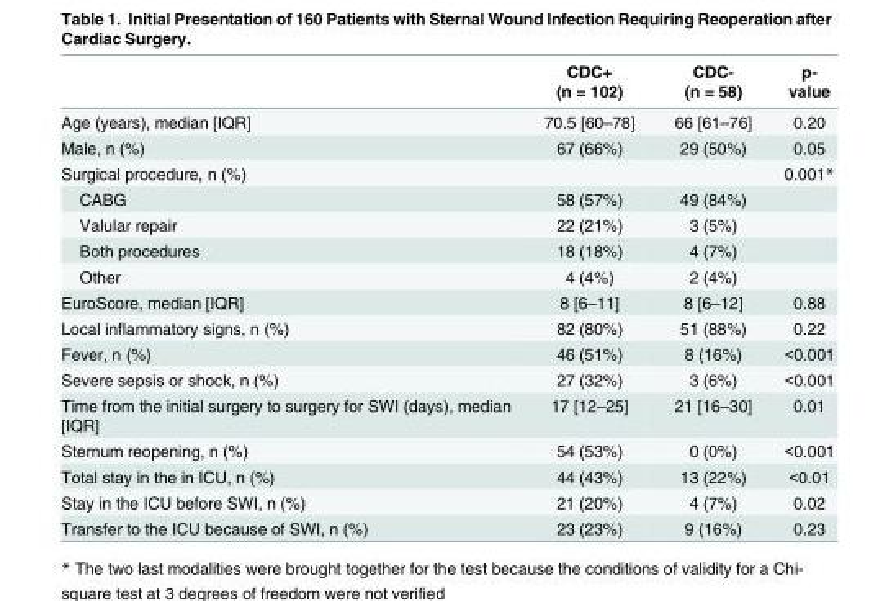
<table><thead><tr><td></td><td>CDC+ (n = 102)</td><td>CDC- (n = 58)</td><td>p- value</td></tr></thead><tbody><tr><td>Age (years), median [IQR]</td><td>70.5 [60–78]</td><td>66 [61–76]</td><td>0.20</td></tr><tr><td>Male, n (%)</td><td>67 (66%)</td><td>29 (50%)</td><td>0.05</td></tr><tr><td>Surgical procedure, n (%)</td><td></td><td></td><td>0.001*</td></tr><tr><td>CABG</td><td>58 (57%)</td><td>49 (84%)</td><td></td></tr><tr><td>Valular repair</td><td>22 (21%)</td><td>3 (5%)</td><td></td></tr><tr><td>Both procedures</td><td>18 (18%)</td><td>4 (7%)</td><td></td></tr><tr><td>Other</td><td>4 (4%)</td><td>2 (4%)</td><td></td></tr><tr><td>EuroScore, median [IQR]</td><td>8 [6–11]</td><td>8 [6–12]</td><td>0.88</td></tr><tr><td>Local inflammatory signs, n (%)</td><td>82 (80%)</td><td>51 (88%)</td><td>0.22</td></tr><tr><td>Fever, n (%)</td><td>46 (51%)</td><td>8 (16%)</td><td>&lt;0.001</td></tr><tr><td>Severe sepsis or shock, n (%)</td><td>27 (32%)</td><td>3 (6%)</td><td>&lt;0.001</td></tr><tr><td>Time from the initial surgery to surgery for SWI (days), median [IQR]</td><td>17 [12–25]</td><td>21 [16–30]</td><td>0.01</td></tr><tr><td>Sternum reopening, n (%)</td><td>54 (53%)</td><td>0 (0%)</td><td>&lt;0.001</td></tr><tr><td>Total stay in the in ICU, n (%)</td><td>44 (43%)</td><td>13 (22%)</td><td>&lt;0.01</td></tr><tr><td>Stay in the ICU before SWI, n (%)</td><td>21 (20%)</td><td>4 (7%)</td><td>0.02</td></tr><tr><td>Transfer to the ICU because of SWI, n (%)</td><td>23 (23%)</td><td>9 (16%)</td><td>0.23</td></tr></tbody></table>